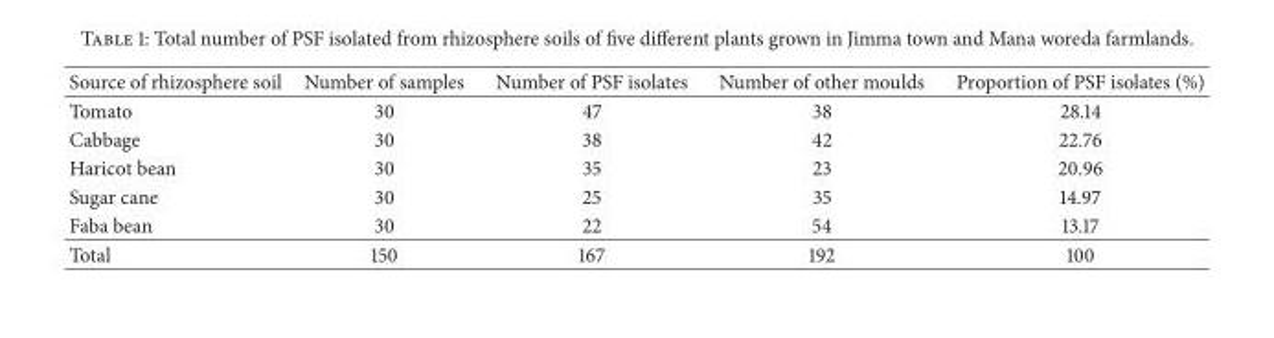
<table><thead><tr><td>Source of rhizosphere soil</td><td>Number of samples</td><td>Number of PSF isolates</td><td>Number of other moulds</td><td>Proportion of PSF isolates (%)</td></tr></thead><tbody><tr><td>Tomato</td><td>30</td><td>47</td><td>38</td><td>28.14</td></tr><tr><td>Cabbage</td><td>30</td><td>38</td><td>42</td><td>22.76</td></tr><tr><td>Haricot bean</td><td>30</td><td>35</td><td>23</td><td>20.96</td></tr><tr><td>Sugar cane</td><td>30</td><td>25</td><td>35</td><td>14.97</td></tr><tr><td>Faba bean</td><td>30</td><td>22</td><td>54</td><td>13.17</td></tr><tr><td>Total</td><td>150</td><td>167</td><td>192</td><td>100</td></tr></tbody></table>